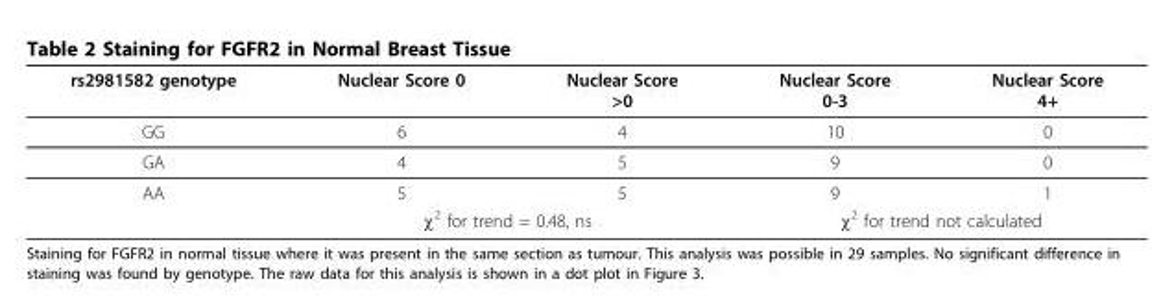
<table><thead><tr><td>rs2981582 genotype</td><td>Nuclear Score 0</td><td>Nuclear Score &gt;0</td><td>Nuclear Score 0-3</td><td>Nuclear Score 4+</td></tr></thead><tbody><tr><td>GG</td><td>6</td><td>4</td><td>10</td><td>0</td></tr><tr><td>GA</td><td>4</td><td>5</td><td>9</td><td>0</td></tr><tr><td rowspan="2">AA</td><td>5</td><td>5</td><td>9</td><td>1</td></tr><tr><td colspan="2">χ<sup>2</sup> for trend = 0.48, ns</td><td colspan="2">χ<sup>2</sup> for trend not calculated</td></tr></tbody></table>